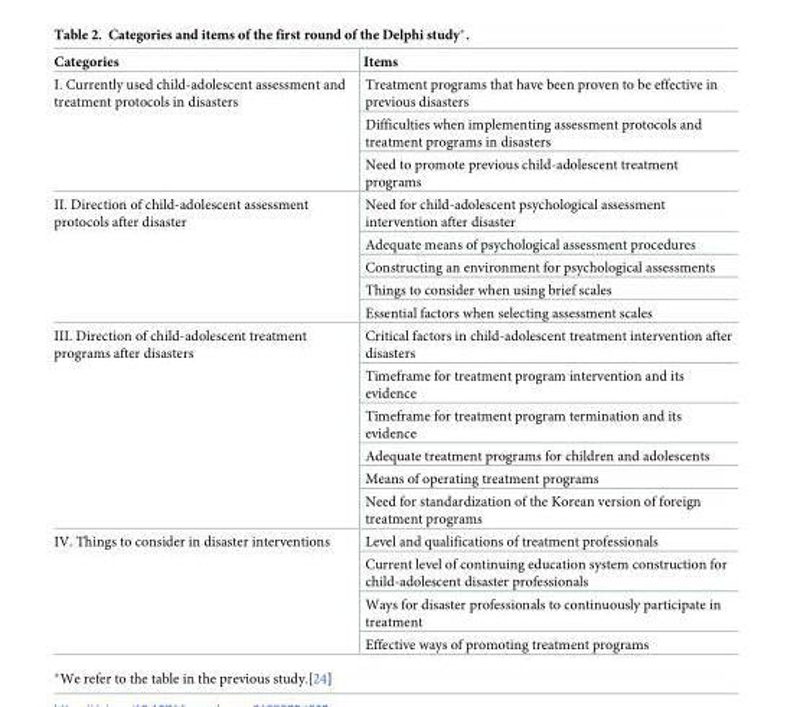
<table><thead><tr><td>Categories</td><td>Items</td></tr></thead><tbody><tr><td rowspan="3">I. Currently used child-adolescent assessment and treatment protocols in disasters</td><td>Treatment programs that have been proven to be effective in previous disasters</td></tr><tr><td>Difficulties when implementing assessment protocols and treatment programs in disasters</td></tr><tr><td>Need to promote previous child-adolescent treatment programs</td></tr><tr><td rowspan="5">II. Direction of child-adolescent assessment protocols after disaster</td><td>Need for child-adolescent psychological assessment intervention after disaster</td></tr><tr><td>Adequate means of psychological assessment procedures</td></tr><tr><td>Constructing an environment for psychological assessments</td></tr><tr><td>Things to consider when using brief scales</td></tr><tr><td>Essential factors when selecting assessment scales</td></tr><tr><td rowspan="6">III. Direction of child-adolescent treatment programs after disasters</td><td>Critical factors in child-adolescent treatment intervention after disasters</td></tr><tr><td>Timeframe for treatment program intervention and its evidence</td></tr><tr><td>Timeframe for treatment program termination and its evidence</td></tr><tr><td>Adequate treatment programs for children and adolescents</td></tr><tr><td>Means of operating treatment programs</td></tr><tr><td>Need for standardization of the Korean version of foreign treatment programs</td></tr><tr><td rowspan="4">IV. Things to consider in disaster interventions</td><td>Level and qualifications of treatment professionals</td></tr><tr><td>Current level of continuing education system construction for child-adolescent disaster professionals</td></tr><tr><td>Ways for disaster professionals to continuously participate in treatment</td></tr><tr><td>Effective ways of promoting treatment programs</td></tr></tbody></table>